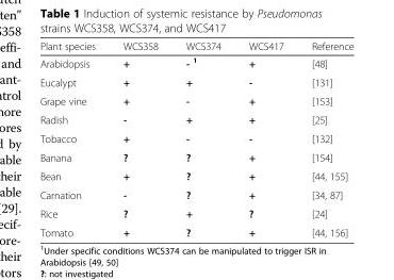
<table><thead><tr><td>Plant species</td><td>WCS358</td><td>WCS374</td><td>WCS417</td><td>Reference</td></tr></thead><tbody><tr><td>Arabidopsis</td><td>+</td><td>- <sup>1</sup></td><td>+</td><td>[48]</td></tr><tr><td>Eucalypt</td><td>+</td><td>+</td><td>-</td><td>[131]</td></tr><tr><td>Grape vine</td><td>+</td><td>-</td><td>+</td><td>[153]</td></tr><tr><td>Radish</td><td>-</td><td>+</td><td>+</td><td>[25]</td></tr><tr><td>Tobacco</td><td>+</td><td>-</td><td>-</td><td>[132]</td></tr><tr><td>Banana</td><td>?</td><td>?</td><td>+</td><td>[154]</td></tr><tr><td>Bean</td><td>+</td><td>?</td><td>+</td><td>[44, 155]</td></tr><tr><td>Carnation</td><td>-</td><td>?</td><td>+</td><td>[34, 87]</td></tr><tr><td>Rice</td><td>?</td><td>+</td><td>?</td><td>[24]</td></tr><tr><td>Tomato</td><td>+</td><td>?</td><td>+</td><td>[44, 156]</td></tr></tbody></table>